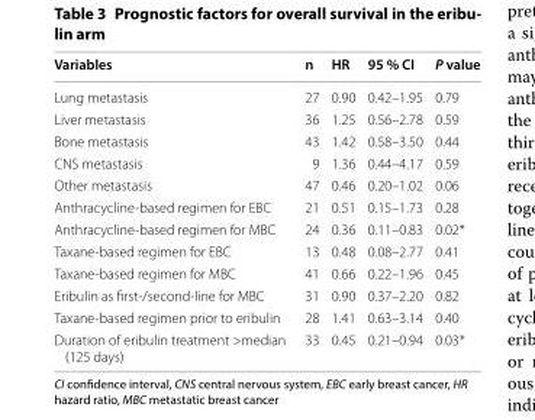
<table><thead><tr><td>Variables</td><td>n</td><td>HR</td><td>95 % CI</td><td>P value</td></tr></thead><tbody><tr><td>Lung metastasis</td><td>27</td><td>0.90</td><td>0.42–1.95</td><td>0.79</td></tr><tr><td>Liver metastasis</td><td>36</td><td>1.25</td><td>0.56–2.78</td><td>0.59</td></tr><tr><td>Bone metastasis</td><td>43</td><td>1.42</td><td>0.58–3.50</td><td>0.44</td></tr><tr><td>CNS metastasis</td><td>9</td><td>1.36</td><td>0.44–4.17</td><td>0.59</td></tr><tr><td>Other metastasis</td><td>47</td><td>0.46</td><td>0.20–1.02</td><td>0.06</td></tr><tr><td>Anthracycline-based regimen for EBC</td><td>21</td><td>0.51</td><td>0.15–1.73</td><td>0.28</td></tr><tr><td>Anthracycline-based regimen for MBC</td><td>24</td><td>0.36</td><td>0.11–0.83</td><td>0.02*</td></tr><tr><td>Taxane-based regimen for EBC</td><td>13</td><td>0.48</td><td>0.08–2.77</td><td>0.41</td></tr><tr><td>Taxane-based regimen for MBC</td><td>41</td><td>0.66</td><td>0.22–1.96</td><td>0.45</td></tr><tr><td>Eribulin as first-/second-line for MBC</td><td>31</td><td>0.90</td><td>0.37–2.20</td><td>0.82</td></tr><tr><td>Taxane-based regimen prior to eribulin</td><td>28</td><td>1.41</td><td>0.63–3.14</td><td>0.40</td></tr><tr><td>Duration of eribulin treatment &gt;median (125 days)</td><td>33</td><td>0.45</td><td>0.21–0.94</td><td>0.03*</td></tr></tbody></table>